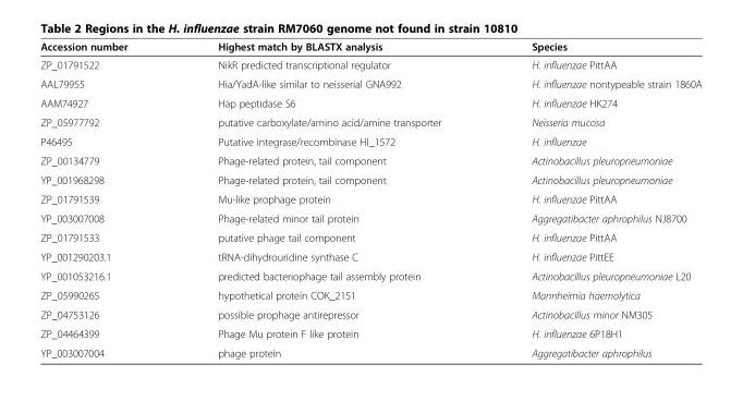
<table><thead><tr><td>Accession number</td><td>Highest match by BLASTX analysis</td><td>Species</td></tr></thead><tbody><tr><td>ZP_01791522</td><td>NikR predicted transcriptional regulator</td><td>H. influenzae PittAA</td></tr><tr><td>AAL79955</td><td>Hia/YadA-like similar to neisserial GNA992</td><td>H. influenzae nontypeable strain 1860A</td></tr><tr><td>AAM74927</td><td>Hap peptidase S6</td><td>H. influenzae HK274</td></tr><tr><td>ZP_05977792</td><td>putative carboxylate/amino acid/amine transporter</td><td>Neisseria mucosa</td></tr><tr><td>P46495</td><td>Putative integrase/recombinase HI_1572</td><td>H. influenzae</td></tr><tr><td>ZP_00134779</td><td>Phage-related protein, tail component</td><td>Actinobacillus pleuropneumoniae</td></tr><tr><td>YP_001968298</td><td>Phage-related protein, tail component</td><td>Actinobacillus pleuropneumoniae</td></tr><tr><td>ZP_01791539</td><td>Mu-like prophage protein</td><td>H. influenzae PittAA</td></tr><tr><td>YP_003007008</td><td>Phage-related minor tail protein</td><td>Aggregatibacter aphrophilus NJ8700</td></tr><tr><td>ZP_01791533</td><td>putative phage tail component</td><td>H. influenzae PittAA</td></tr><tr><td>YP_001290203.1</td><td>tRNA-dihydrouridine synthase C</td><td>H. influenzae PittEE</td></tr><tr><td>YP_001053216.1</td><td>predicted bacteriophage tail assembly protein</td><td>Actinobacillus pleuropneumoniae L20</td></tr><tr><td>ZP_05990265</td><td>hypothetical protein COK_2151</td><td>Mannheimia haemolytica</td></tr><tr><td>ZP_04753126</td><td>possible prophage antirepressor</td><td>Actinobacillus minor NM305</td></tr><tr><td>ZP_04464399</td><td>Phage Mu protein F like protein</td><td>H. influenzae 6P18H1</td></tr><tr><td>YP_003007004</td><td>phage protein</td><td>Aggregatibacter aphrophilus</td></tr></tbody></table>